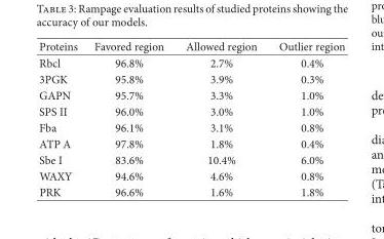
<table><thead><tr><td>Proteins</td><td>Favored region</td><td>Allowed region</td><td>Outlier region</td></tr></thead><tbody><tr><td>Rbcl</td><td>96.8%</td><td>2.7%</td><td>0.4%</td></tr><tr><td>3PGK</td><td>95.8%</td><td>3.9%</td><td>0.3%</td></tr><tr><td>GAPN</td><td>95.7%</td><td>3.3%</td><td>1.0%</td></tr><tr><td>SPS II</td><td>96.0%</td><td>3.0%</td><td>1.0%</td></tr><tr><td>Fba</td><td>96.1%</td><td>3.1%</td><td>0.8%</td></tr><tr><td>ATP A</td><td>97.8%</td><td>1.8%</td><td>0.4%</td></tr><tr><td>Sbe I</td><td>83.6%</td><td>10.4%</td><td>6.0%</td></tr><tr><td>WAXY</td><td>94.6%</td><td>4.6%</td><td>0.8%</td></tr><tr><td>PRK</td><td>96.6%</td><td>1.6%</td><td>1.8%</td></tr></tbody></table>